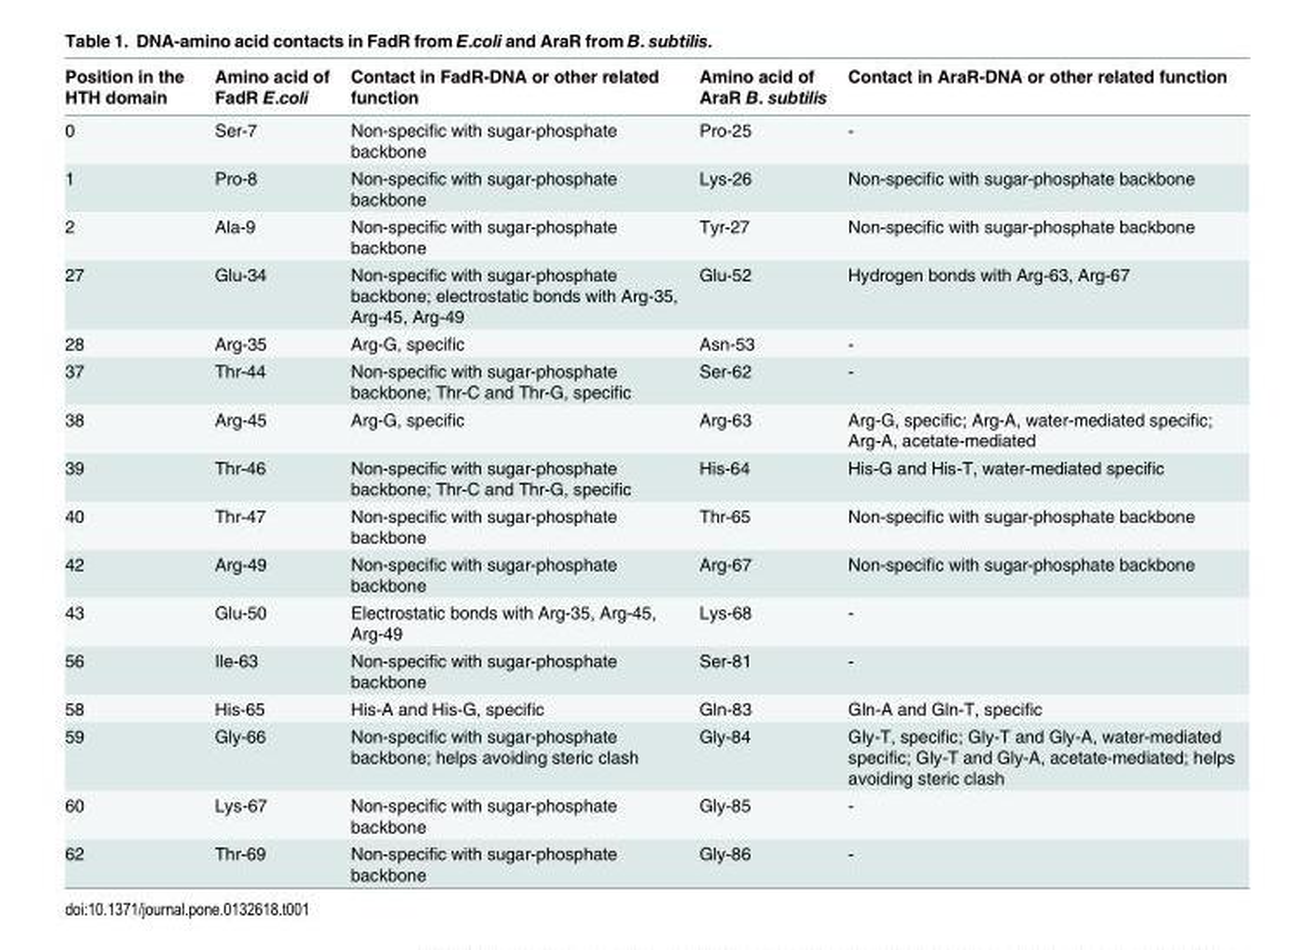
<table><thead><tr><td>Position in the HTH domain</td><td>Amino acid of FadR E.coli</td><td>Contact in FadR-DNA or other related function</td><td>Amino acid of AraR B. subtilis</td><td>Contact in AraR-DNA or other related function</td></tr></thead><tbody><tr><td>0</td><td>Ser-7</td><td>Non-specific with sugar-phosphate backbone</td><td>Pro-25</td><td>-</td></tr><tr><td>1</td><td>Pro-8</td><td>Non-specific with sugar-phosphate backbone</td><td>Lys-26</td><td>Non-specific with sugar-phosphate backbone</td></tr><tr><td>2</td><td>Ala-9</td><td>Non-specific with sugar-phosphate backbone</td><td>Tyr-27</td><td>Non-specific with sugar-phosphate backbone</td></tr><tr><td>27</td><td>Glu-34</td><td>Non-specific with sugar-phosphate backbone; electrostatic bonds with Arg-35, Arg-45, Arg-49</td><td>Glu-52</td><td>Hydrogen bonds with Arg-63, Arg-67</td></tr><tr><td>28</td><td>Arg-35</td><td>Arg-G, specific</td><td>Asn-53</td><td>-</td></tr><tr><td>37</td><td>Thr-44</td><td>Non-specific with sugar-phosphate backbone; Thr-C and Thr-G, specific</td><td>Ser-62</td><td>-</td></tr><tr><td>38</td><td>Arg-45</td><td>Arg-G, specific</td><td>Arg-63</td><td>Arg-G, specific; Arg-A, water-mediated specific; Arg-A, acetate-mediated</td></tr><tr><td>39</td><td>Thr-46</td><td>Non-specific with sugar-phosphate backbone; Thr-C and Thr-G, specific</td><td>His-64</td><td>His-G and His-T, water-mediated specific</td></tr><tr><td>40</td><td>Thr-47</td><td>Non-specific with sugar-phosphate backbone</td><td>Thr-65</td><td>Non-specific with sugar-phosphate backbone</td></tr><tr><td>42</td><td>Arg-49</td><td>Non-specific with sugar-phosphate backbone</td><td>Arg-67</td><td>Non-specific with sugar-phosphate backbone</td></tr><tr><td>43</td><td>Glu-50</td><td>Electrostatic bonds with Arg-35, Arg-45, Arg-49</td><td>Lys-68</td><td>-</td></tr><tr><td>56</td><td>Ile-63</td><td>Non-specific with sugar-phosphate backbone</td><td>Ser-81</td><td>-</td></tr><tr><td>58</td><td>His-65</td><td>His-A and His-G, specific</td><td>Gln-83</td><td>Gln-A and Gln-T, specific</td></tr><tr><td>59</td><td>Gly-66</td><td>Non-specific with sugar-phosphate backbone; helps avoiding steric clash</td><td>Gly-84</td><td>Gly-T, specific; Gly-T and Gly-A, water-mediated specific; Gly-T and Gly-A, acetate-mediated; helps avoiding steric clash</td></tr><tr><td>60</td><td>Lys-67</td><td>Non-specific with sugar-phosphate backbone</td><td>Gly-85</td><td>-</td></tr><tr><td>62</td><td>Thr-69</td><td>Non-specific with sugar-phosphate backbone</td><td>Gly-86</td><td>-</td></tr></tbody></table>